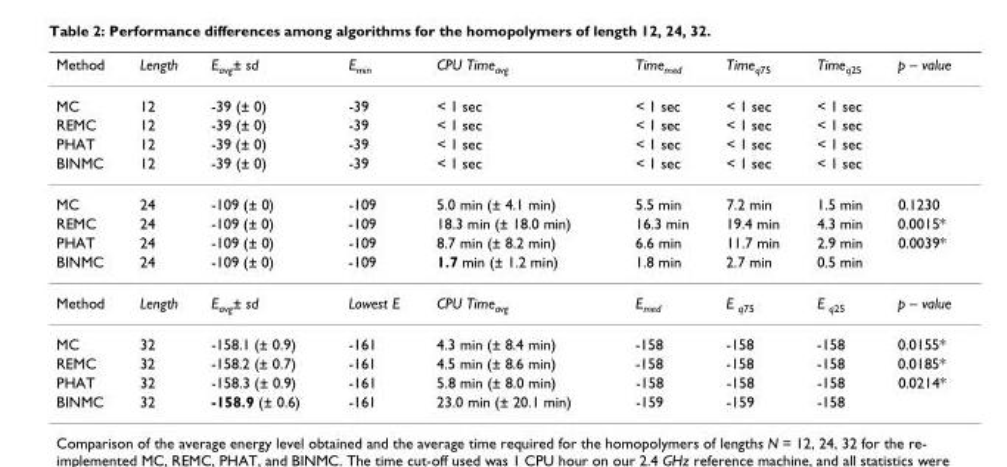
<table><thead><tr><td>Method</td><td>Length</td><td>E<sub>avg</sub>± sd</td><td>E<sub>min</sub></td><td>CPU Time<sub>avg</sub></td><td>Time<sub>med</sub></td><td>Time<sub>q75</sub></td><td>Time<sub>q25</sub></td><td>p – value</td></tr></thead><tbody><tr><td>MC</td><td>12</td><td>-39 (± 0)</td><td>-39</td><td>&lt; 1 sec</td><td>&lt; 1 sec</td><td>&lt; 1 sec</td><td>&lt; 1 sec</td><td></td></tr><tr><td>REMC</td><td>12</td><td>-39 (± 0)</td><td>-39</td><td>&lt; 1 sec</td><td>&lt; 1 sec</td><td>&lt; 1 sec</td><td>&lt; 1 sec</td><td></td></tr><tr><td>PHAT</td><td>12</td><td>-39 (± 0)</td><td>-39</td><td>&lt; 1 sec</td><td>&lt; 1 sec</td><td>&lt; 1 sec</td><td>&lt; 1 sec</td><td></td></tr><tr><td>BINMC</td><td>12</td><td>-39 (± 0)</td><td>-39</td><td>&lt; 1 sec</td><td>&lt; 1 sec</td><td>&lt; 1 sec</td><td>&lt; 1 sec</td><td></td></tr><tr><td>MC</td><td>24</td><td>-109 (± 0)</td><td>-109</td><td>5.0 min (± 4.1 min)</td><td>5.5 min</td><td>7.2 min</td><td>1.5 min</td><td>0.1230</td></tr><tr><td>REMC</td><td>24</td><td>-109 (± 0)</td><td>-109</td><td>18.3 min (± 18.0 min)</td><td>16.3 min</td><td>19.4 min</td><td>4.3 min</td><td>0.0015*</td></tr><tr><td>PHAT</td><td>24</td><td>-109 (± 0)</td><td>-109</td><td>8.7 min (± 8.2 min)</td><td>6.6 min</td><td>11.7 min</td><td>2.9 min</td><td>0.0039*</td></tr><tr><td>BINMC</td><td>24</td><td>-109 (± 0)</td><td>-109</td><td>1.7 min (± 1.2 min)</td><td>1.8 min</td><td>2.7 min</td><td>0.5 min</td><td></td></tr><tr><td>Method</td><td>Length</td><td>E<sub>avg</sub>± sd</td><td>Lowest E</td><td>CPU Time<sub>avg</sub></td><td>E<sub>med</sub></td><td>E <sub>q75</sub></td><td>E <sub>q25</sub></td><td>p – value</td></tr><tr><td>MC</td><td>32</td><td>-158.1 (± 0.9)</td><td>-161</td><td>4.3 min (± 8.4 min)</td><td>-158</td><td>-158</td><td>-158</td><td>0.0155*</td></tr><tr><td>REMC</td><td>32</td><td>-158.2 (± 0.7)</td><td>-161</td><td>4.5 min (± 8.6 min)</td><td>-158</td><td>-158</td><td>-158</td><td>0.0185*</td></tr><tr><td>PHAT</td><td>32</td><td>-158.3 (± 0.9)</td><td>-161</td><td>5.8 min (± 8.0 min)</td><td>-158</td><td>-158</td><td>-158</td><td>0.0214*</td></tr><tr><td>BINMC</td><td>32</td><td>-158.9 (± 0.6)</td><td>-161</td><td>23.0 min (± 20.1 min)</td><td>-159</td><td>-159</td><td>-158</td><td></td></tr></tbody></table>